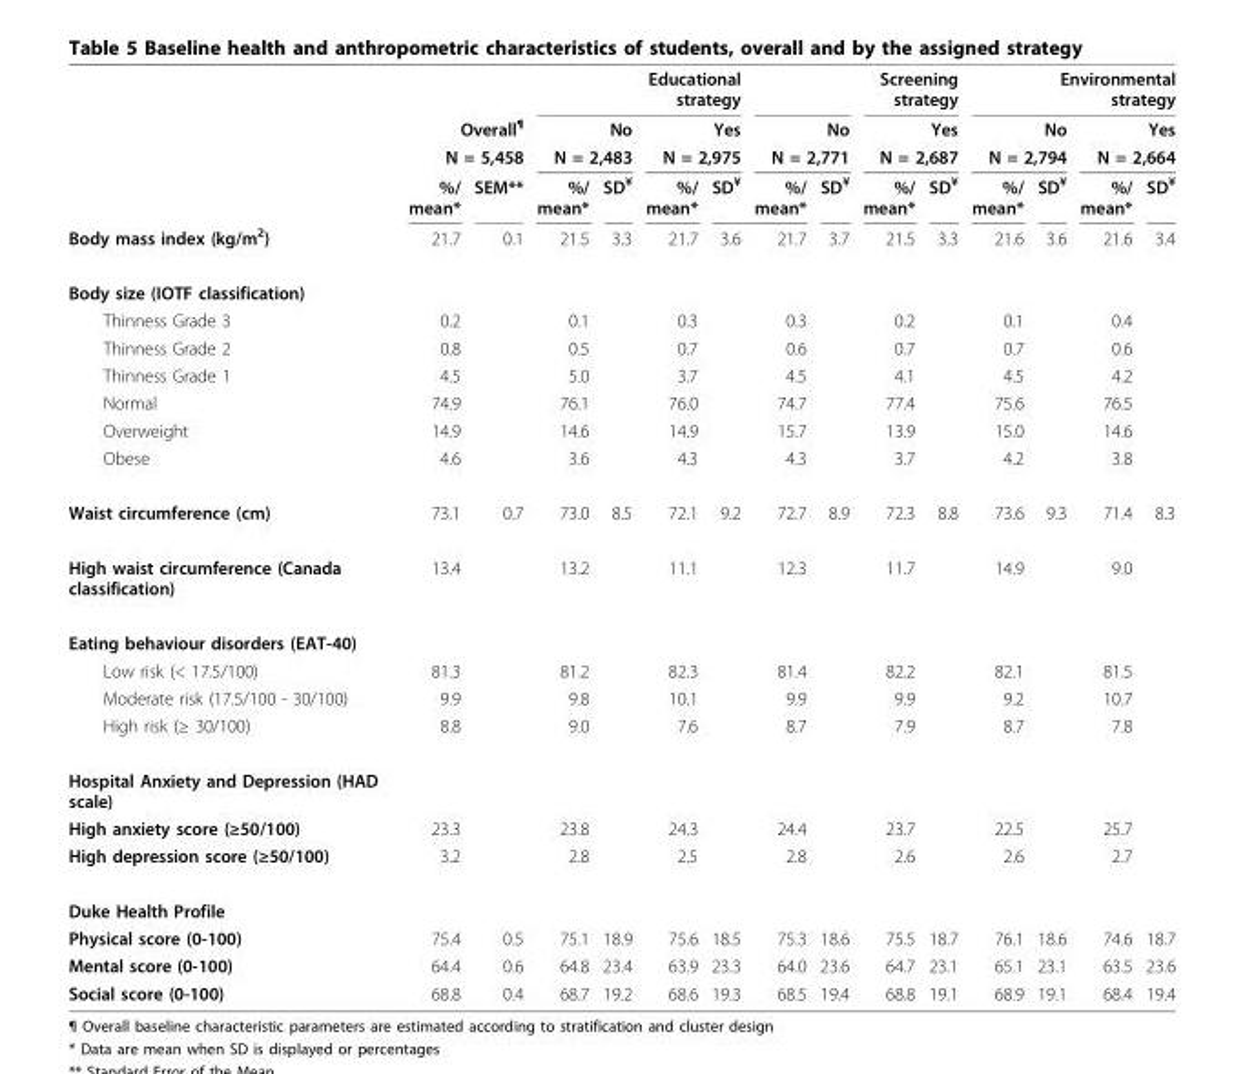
<table><thead><tr><td rowspan="4"></td><td></td><td></td><td colspan="4">Educational strategy</td><td colspan="4">Screening strategy</td><td colspan="4">Environmental strategy</td></tr><tr><td rowspan="2" colspan="2">Overall<sup>¶</sup> N = 5,458</td><td rowspan="2" colspan="2">No N = 2,483</td><td rowspan="2" colspan="2">Yes N = 2,975</td><td rowspan="2" colspan="2">No N = 2,771</td><td rowspan="2" colspan="2">Yes N = 2,687</td><td rowspan="2" colspan="2">No N = 2,794</td><td rowspan="2" colspan="2">Yes N = 2,664</td></tr><tr></tr><tr><td>%/ mean*</td><td>SEM**</td><td>%/ mean*</td><td>SD<sup>¥</sup></td><td>%/ mean*</td><td>SD<sup>¥</sup></td><td>%/ mean*</td><td>SD<sup>¥</sup></td><td>%/ mean*</td><td>SD<sup>¥</sup></td><td>%/ mean*</td><td>SD<sup>¥</sup></td><td>%/ mean*</td><td>SD<sup>¥</sup></td></tr></thead><tbody><tr><td>Body mass index (kg/m<sup>2</sup>)</td><td>21.7</td><td>0.1</td><td>21.5</td><td>3.3</td><td>21.7</td><td>3.6</td><td>21.7</td><td>3.7</td><td>21.5</td><td>3.3</td><td>21.6</td><td>3.6</td><td>21.6</td><td>3.4</td></tr><tr><td colspan="15">Body size (IOTF classification)</td></tr><tr><td>Thinness Grade 3</td><td>0.2</td><td></td><td>0.1</td><td></td><td>0.3</td><td></td><td>0.3</td><td></td><td>0.2</td><td></td><td>0.1</td><td></td><td>0.4</td><td></td></tr><tr><td>Thinness Grade 2</td><td>0.8</td><td></td><td>0.5</td><td></td><td>0.7</td><td></td><td>0.6</td><td></td><td>0.7</td><td></td><td>0.7</td><td></td><td>0.6</td><td></td></tr><tr><td>Thinness Grade 1</td><td>4.5</td><td></td><td>5.0</td><td></td><td>3.7</td><td></td><td>4.5</td><td></td><td>4.1</td><td></td><td>4.5</td><td></td><td>4.2</td><td></td></tr><tr><td>Normal</td><td>74.9</td><td></td><td>76.1</td><td></td><td>76.0</td><td></td><td>74.7</td><td></td><td>77.4</td><td></td><td>75.6</td><td></td><td>76.5</td><td></td></tr><tr><td>Overweight</td><td>14.9</td><td></td><td>14.6</td><td></td><td>14.9</td><td></td><td>15.7</td><td></td><td>13.9</td><td></td><td>15.0</td><td></td><td>14.6</td><td></td></tr><tr><td>Obese</td><td>4.6</td><td></td><td>3.6</td><td></td><td>4.3</td><td></td><td>4.3</td><td></td><td>3.7</td><td></td><td>4.2</td><td></td><td>3.8</td><td></td></tr><tr><td>Waist circumference (cm)</td><td>73.1</td><td>0.7</td><td>73.0</td><td>8.5</td><td>72.1</td><td>9.2</td><td>72.7</td><td>8.9</td><td>72.3</td><td>8.8</td><td>73.6</td><td>9.3</td><td>71.4</td><td>8.3</td></tr><tr><td>High waist circumference (Canada classification)</td><td>13.4</td><td></td><td>13.2</td><td></td><td>11.1</td><td></td><td>12.3</td><td></td><td>11.7</td><td></td><td>14.9</td><td></td><td>9.0</td><td></td></tr><tr><td colspan="15">Eating behaviour disorders (EAT-40)</td></tr><tr><td>Low risk (&lt; 17.5/100)</td><td>81.3</td><td></td><td>81.2</td><td></td><td>82.3</td><td></td><td>81.4</td><td></td><td>82.2</td><td></td><td>82.1</td><td></td><td>81.5</td><td></td></tr><tr><td>Moderate risk (17.5/100 - 30/100)</td><td>9.9</td><td></td><td>9.8</td><td></td><td>10.1</td><td></td><td>9.9</td><td></td><td>9.9</td><td></td><td>9.2</td><td></td><td>10.7</td><td></td></tr><tr><td>High risk (≥ 30/100)</td><td>8.8</td><td></td><td>9.0</td><td></td><td>7.6</td><td></td><td>8.7</td><td></td><td>7.9</td><td></td><td>8.7</td><td></td><td>7.8</td><td></td></tr><tr><td colspan="15">Hospital Anxiety and Depression (HAD scale)</td></tr><tr><td>High anxiety score (≥50/100)</td><td>23.3</td><td></td><td>23.8</td><td></td><td>24.3</td><td></td><td>24.4</td><td></td><td>23.7</td><td></td><td>22.5</td><td></td><td>25.7</td><td></td></tr><tr><td>High depression score (≥50/100)</td><td>3.2</td><td></td><td>2.8</td><td></td><td>2.5</td><td></td><td>2.8</td><td></td><td>2.6</td><td></td><td>2.6</td><td></td><td>2.7</td><td></td></tr><tr><td colspan="15">Duke Health Profile</td></tr><tr><td>Physical score (0-100)</td><td>75.4</td><td>0.5</td><td>75.1</td><td>18.9</td><td>75.6</td><td>18.5</td><td>75.3</td><td>18.6</td><td>75.5</td><td>18.7</td><td>76.1</td><td>18.6</td><td>74.6</td><td>18.7</td></tr><tr><td>Mental score (0-100)</td><td>64.4</td><td>0.6</td><td>64.8</td><td>23.4</td><td>63.9</td><td>23.3</td><td>64.0</td><td>23.6</td><td>64.7</td><td>23.1</td><td>65.1</td><td>23.1</td><td>63.5</td><td>23.6</td></tr><tr><td>Social score (0-100)</td><td>68.8</td><td>0.4</td><td>68.7</td><td>19.2</td><td>68.6</td><td>19.3</td><td>68.5</td><td>19.4</td><td>68.8</td><td>19.1</td><td>68.9</td><td>19.1</td><td>68.4</td><td>19.4</td></tr></tbody></table>